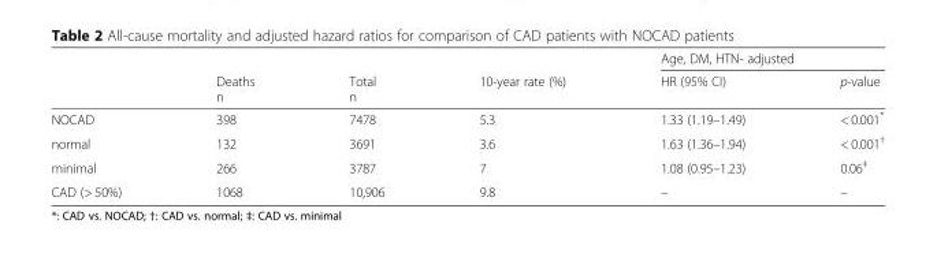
<table><thead><tr><td rowspan="2"></td><td rowspan="2">Deaths n</td><td rowspan="2">Total n</td><td rowspan="2">10-year rate (%)</td><td colspan="2">Age, DM, HTN- adjusted</td></tr><tr><td>HR (95% CI)</td><td>p-value</td></tr></thead><tbody><tr><td>NOCAD</td><td>398</td><td>7478</td><td>5.3</td><td>1.33 (1.19–1.49)</td><td>&lt; 0.001*</td></tr><tr><td>normal</td><td>132</td><td>3691</td><td>3.6</td><td>1.63 (1.36–1.94)</td><td>&lt; 0.001<sup>†</sup></td></tr><tr><td>minimal</td><td>266</td><td>3787</td><td>7</td><td>1.08 (0.95–1.23)</td><td>0.06<sup>‡</sup></td></tr><tr><td>CAD (&gt; 50%)</td><td>1068</td><td>10,906</td><td>9.8</td><td>–</td><td>–</td></tr></tbody></table>